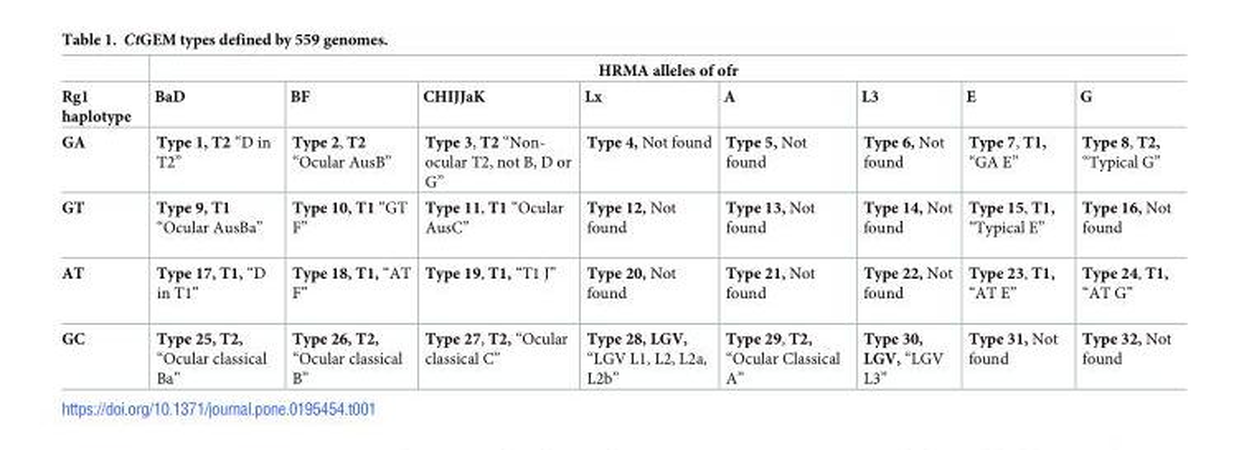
<table><thead><tr><td rowspan="2">Rg1 haplotype</td><td colspan="8">HRMA alleles of ofr</td></tr><tr><td>BaD</td><td>BF</td><td>CHIJJaK</td><td>Lx</td><td>A</td><td>L3</td><td>E</td><td>G</td></tr></thead><tbody><tr><td>GA</td><td>Type 1, T2 “D in T2”</td><td>Type 2, T2 “Ocular AusB”</td><td>Type 3, T2 “Non- ocular T2, not B, D or G”</td><td>Type 4, Not found</td><td>Type 5, Not found</td><td>Type 6, Not found</td><td>Type 7, T1, “GA E”</td><td>Type 8, T2, “Typical G”</td></tr><tr><td>GT</td><td>Type 9, T1 “Ocular AusBa”</td><td>Type 10, T1 “GT F”</td><td>Type 11, T1 “Ocular AusC”</td><td>Type 12, Not found</td><td>Type 13, Not found</td><td>Type 14, Not found</td><td>Type 15, T1, “Typical E”</td><td>Type 16, Not found</td></tr><tr><td>AT</td><td>Type 17, T1, “D in T1”</td><td>Type 18, T1, “AT F”</td><td>Type 19, T1, “T1 J”</td><td>Type 20, Not found</td><td>Type 21, Not found</td><td>Type 22, Not found</td><td>Type 23, T1, “AT E”</td><td>Type 24, T1, “AT G”</td></tr><tr><td>GC</td><td>Type 25, T2, “Ocular classical Ba”</td><td>Type 26, T2, “Ocular classical B”</td><td>Type 27, T2, “Ocular classical C”</td><td>Type 28, LGV, “LGV L1, L2, L2a, L2b”</td><td>Type 29, T2, “Ocular Classical A”</td><td>Type 30, LGV, “LGV L3”</td><td>Type 31, Not found</td><td>Type 32, Not found</td></tr></tbody></table>